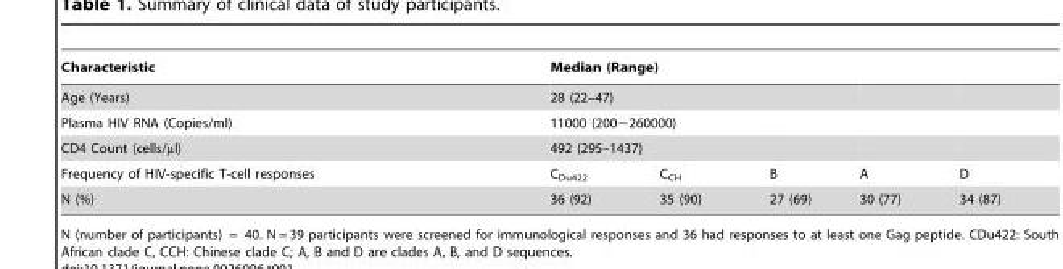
<table><thead><tr><td>Characteristic</td><td colspan="2">Median (Range)</td><td></td><td></td><td></td></tr></thead><tbody><tr><td>Age (Years)</td><td colspan="2">28 (22–47)</td><td></td><td></td><td></td></tr><tr><td>Plasma HIV RNA (Copies/ml)</td><td colspan="2">11000 (200−260000)</td><td></td><td></td><td></td></tr><tr><td>CD4 Count (cells/µl)</td><td colspan="2">492 (295–1437)</td><td></td><td></td><td></td></tr><tr><td>Frequency of HIV-specific T-cell responses</td><td>C<sub>Du422</sub></td><td>C<sub>CH</sub></td><td>B</td><td>A</td><td>D</td></tr><tr><td>N (%)</td><td>36 (92)</td><td>35 (90)</td><td>27 (69)</td><td>30 (77)</td><td>34 (87)</td></tr></tbody></table>